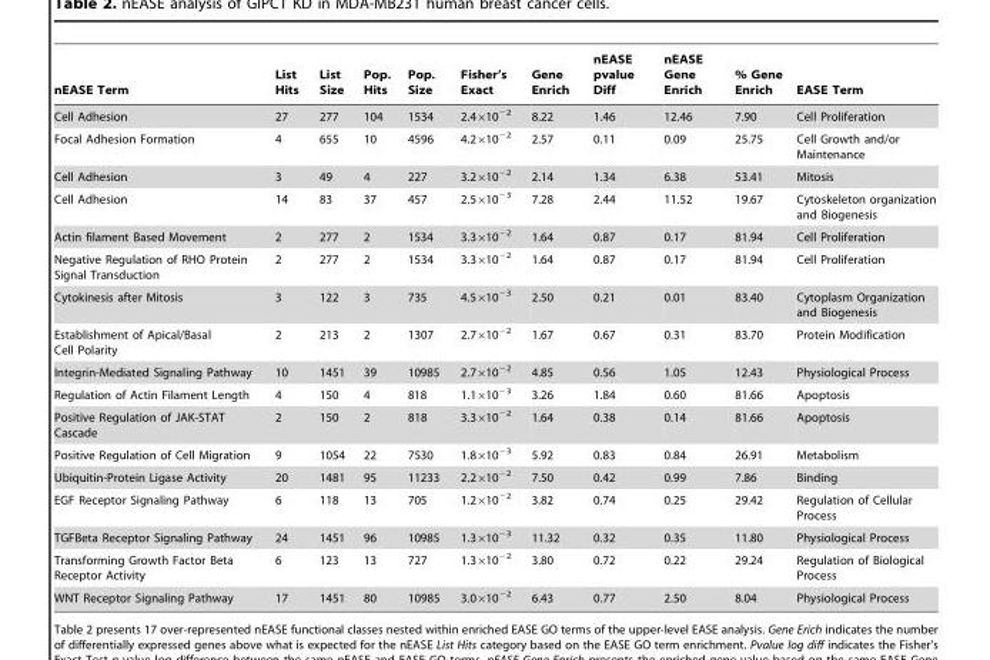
<table><thead><tr><td>nEASE Term</td><td>List Hits</td><td>List Size</td><td>Pop. Hits</td><td>Pop. Size</td><td>Fisher’s Exact</td><td>Gene Enrich</td><td>nEASE pvalue Diff</td><td>nEASE Gene Enrich</td><td>% Gene Enrich</td><td>EASE Term</td></tr></thead><tbody><tr><td>Cell Adhesion</td><td>27</td><td>277</td><td>104</td><td>1534</td><td>2.4×10<sup>−2</sup></td><td>8.22</td><td>1.46</td><td>12.46</td><td>7.90</td><td>Cell Proliferation</td></tr><tr><td>Focal Adhesion Formation</td><td>4</td><td>655</td><td>10</td><td>4596</td><td>4.2×10<sup>−2</sup></td><td>2.57</td><td>0.11</td><td>0.09</td><td>25.75</td><td>Cell Growth and/or Maintenance</td></tr><tr><td>Cell Adhesion</td><td>3</td><td>49</td><td>4</td><td>227</td><td>3.2×10<sup>−2</sup></td><td>2.14</td><td>1.34</td><td>6.38</td><td>53.41</td><td>Mitosis</td></tr><tr><td>Cell Adhesion</td><td>14</td><td>83</td><td>37</td><td>457</td><td>2.5×10<sup>−3</sup></td><td>7.28</td><td>2.44</td><td>11.52</td><td>19.67</td><td>Cytoskeleton organization and Biogenesis</td></tr><tr><td>Actin filament Based Movement</td><td>2</td><td>277</td><td>2</td><td>1534</td><td>3.3×10<sup>−2</sup></td><td>1.64</td><td>0.87</td><td>0.17</td><td>81.94</td><td>Cell Proliferation</td></tr><tr><td>Negative Regulation of RHO Protein Signal Transduction</td><td>2</td><td>277</td><td>2</td><td>1534</td><td>3.3×10<sup>−2</sup></td><td>1.64</td><td>0.87</td><td>0.17</td><td>81.94</td><td>Cell Proliferation</td></tr><tr><td>Cytokinesis after Mitosis</td><td>3</td><td>122</td><td>3</td><td>735</td><td>4.5×10<sup>−3</sup></td><td>2.50</td><td>0.21</td><td>0.01</td><td>83.40</td><td>Cytoplasm Organization and Biogenesis</td></tr><tr><td>Establishment of Apical/Basal Cell Polarity</td><td>2</td><td>213</td><td>2</td><td>1307</td><td>2.7×10<sup>−2</sup></td><td>1.67</td><td>0.67</td><td>0.31</td><td>83.70</td><td>Protein Modification</td></tr><tr><td>Integrin-Mediated Signaling Pathway</td><td>10</td><td>1451</td><td>39</td><td>10985</td><td>2.7×10<sup>−2</sup></td><td>4.85</td><td>0.56</td><td>1.05</td><td>12.43</td><td>Physiological Process</td></tr><tr><td>Regulation of Actin Filament Length</td><td>4</td><td>150</td><td>4</td><td>818</td><td>1.1×10<sup>−3</sup></td><td>3.26</td><td>1.84</td><td>0.60</td><td>81.66</td><td>Apoptosis</td></tr><tr><td>Positive Regulation of JAK-STAT Cascade</td><td>2</td><td>150</td><td>2</td><td>818</td><td>3.3×10<sup>−2</sup></td><td>1.64</td><td>0.38</td><td>0.14</td><td>81.66</td><td>Apoptosis</td></tr><tr><td>Positive Regulation of Cell Migration</td><td>9</td><td>1054</td><td>22</td><td>7530</td><td>1.8×10<sup>−3</sup></td><td>5.92</td><td>0.83</td><td>0.84</td><td>26.91</td><td>Metabolism</td></tr><tr><td>Ubiquitin-Protein Ligase Activity</td><td>20</td><td>1481</td><td>95</td><td>11233</td><td>2.2×10<sup>−2</sup></td><td>7.50</td><td>0.42</td><td>0.99</td><td>7.86</td><td>Binding</td></tr><tr><td>EGF Receptor Signaling Pathway</td><td>6</td><td>118</td><td>13</td><td>705</td><td>1.2×10<sup>−2</sup></td><td>3.82</td><td>0.74</td><td>0.25</td><td>29.42</td><td>Regulation of Cellular Process</td></tr><tr><td>TGFBeta Receptor Signaling Pathway</td><td>24</td><td>1451</td><td>96</td><td>10985</td><td>1.3×10<sup>−3</sup></td><td>11.32</td><td>0.32</td><td>0.35</td><td>11.80</td><td>Physiological Process</td></tr><tr><td>Transforming Growth Factor Beta Receptor Activity</td><td>6</td><td>123</td><td>13</td><td>727</td><td>1.3×10<sup>−2</sup></td><td>3.80</td><td>0.72</td><td>0.22</td><td>29.24</td><td>Regulation of Biological Process</td></tr><tr><td>WNT Receptor Signaling Pathway</td><td>17</td><td>1451</td><td>80</td><td>10985</td><td>3.0×10<sup>−2</sup></td><td>6.43</td><td>0.77</td><td>2.50</td><td>8.04</td><td>Physiological Process</td></tr></tbody></table>